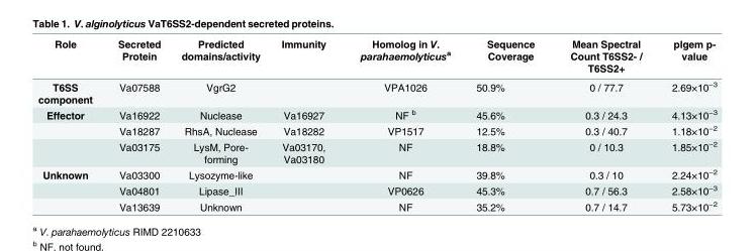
<table><thead><tr><td>Role</td><td>Secreted Protein</td><td>Predicted domains/activity</td><td>Immunity</td><td>Homolog in V. parahaemolyticus<sup>a</sup></td><td>Sequence Coverage</td><td>Mean Spectral Count T6SS2- / T6SS2+</td><td>plgem p- value</td></tr></thead><tbody><tr><td>T6SS component</td><td>Va07588</td><td>VgrG2</td><td></td><td>VPA1026</td><td>50.9%</td><td>0 / 77.7</td><td>2.69×10<sup>−3</sup></td></tr><tr><td rowspan="3">Effector</td><td>Va16922</td><td>Nuclease</td><td>Va16927</td><td>NF <sup>b</sup></td><td>45.6%</td><td>0.3 / 24.3</td><td>4.13×10<sup>−3</sup></td></tr><tr><td>Va18287</td><td>RhsA, Nuclease</td><td>Va18282</td><td>VP1517</td><td>12.5%</td><td>0.3 / 40.7</td><td>1.18×10<sup>−2</sup></td></tr><tr><td>Va03175</td><td>LysM, Pore- forming</td><td>Va03170, Va03180</td><td>NF</td><td>18.8%</td><td>0 / 10.3</td><td>1.85×10<sup>−2</sup></td></tr><tr><td rowspan="3">Unknown</td><td>Va03300</td><td>Lysozyme-like</td><td></td><td>NF</td><td>39.8%</td><td>0.3 / 10</td><td>2.24×10<sup>−2</sup></td></tr><tr><td>Va04801</td><td>Lipase_III</td><td></td><td>VP0626</td><td>45.3%</td><td>0.7 / 56.3</td><td>2.58×10<sup>−3</sup></td></tr><tr><td>Va13639</td><td>Unknown</td><td></td><td>NF</td><td>35.2%</td><td>0.7 / 14.7</td><td>5.73×10<sup>−2</sup></td></tr></tbody></table>